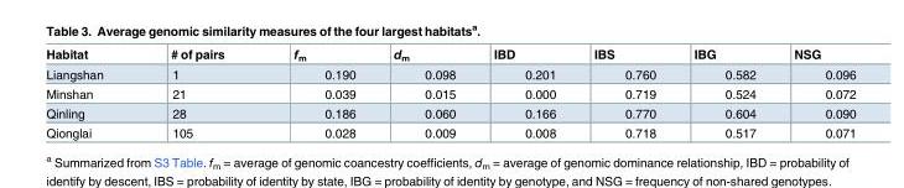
<table><thead><tr><td>Habitat</td><td># of pairs</td><td>f<sub>m</sub></td><td>d<sub>m</sub></td><td>IBD</td><td>IBS</td><td>IBG</td><td>NSG</td></tr></thead><tbody><tr><td>Liangshan</td><td>1</td><td>0.190</td><td>0.098</td><td>0.201</td><td>0.760</td><td>0.582</td><td>0.096</td></tr><tr><td>Minshan</td><td>21</td><td>0.039</td><td>0.015</td><td>0.000</td><td>0.719</td><td>0.524</td><td>0.072</td></tr><tr><td>Qinling</td><td>28</td><td>0.186</td><td>0.060</td><td>0.166</td><td>0.770</td><td>0.604</td><td>0.090</td></tr><tr><td>Qionglai</td><td>105</td><td>0.028</td><td>0.009</td><td>0.008</td><td>0.718</td><td>0.517</td><td>0.071</td></tr></tbody></table>